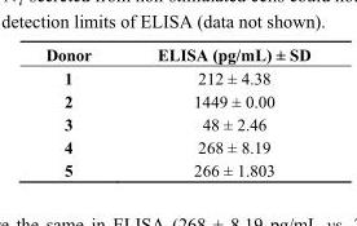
<table><thead><tr><td>Donor</td><td>ELISA (pg/mL) ± SD</td></tr></thead><tbody><tr><td>1</td><td>212 ± 4.38</td></tr><tr><td>2</td><td>1449 ± 0.00</td></tr><tr><td>3</td><td>48 ± 2.46</td></tr><tr><td>4</td><td>268 ± 8.19</td></tr><tr><td>5</td><td>266 ± 1.803</td></tr></tbody></table>